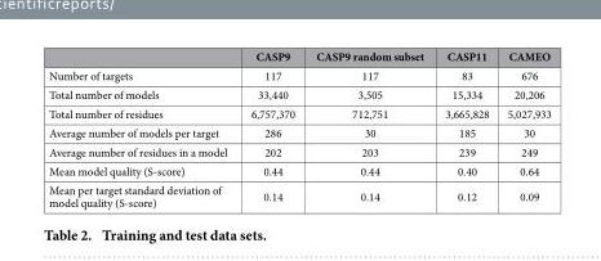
<table><thead><tr><td></td><td>CASP9</td><td>CASP9 random subset</td><td>CASP11</td><td>CAMEO</td></tr></thead><tbody><tr><td>Number of targets</td><td>117</td><td>117</td><td>83</td><td>676</td></tr><tr><td>Total number of models</td><td>33,440</td><td>3,505</td><td>15,334</td><td>20,206</td></tr><tr><td>Total number of residues</td><td>6,757,370</td><td>712,751</td><td>3,665,828</td><td>5,027,933</td></tr><tr><td>Average number of models per target</td><td>286</td><td>30</td><td>185</td><td>30</td></tr><tr><td>Average number of residues in a model</td><td>202</td><td>203</td><td>239</td><td>249</td></tr><tr><td>Mean model quality (S-score)</td><td>0.44</td><td>0.44</td><td>0.40</td><td>0.64</td></tr><tr><td>Mean per target standard deviation of model quality (S-score)</td><td>0.14</td><td>0.14</td><td>0.12</td><td>0.09</td></tr></tbody></table>